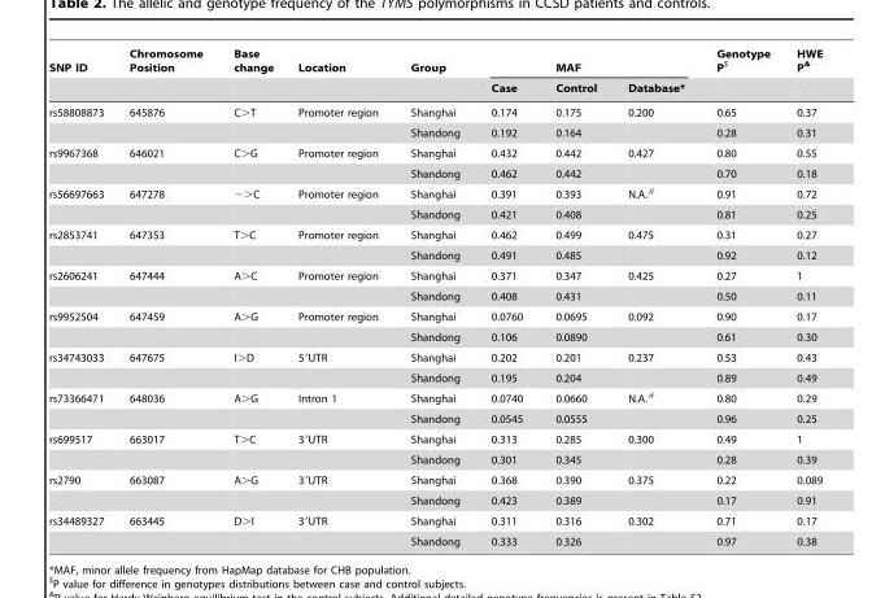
<table><thead><tr><td rowspan="2">SNP ID</td><td rowspan="2">Chromosome Position</td><td rowspan="2">Base change</td><td rowspan="2">Location</td><td rowspan="2">Group</td><td rowspan="2">Case</td><td rowspan="2">MAF Control</td><td rowspan="2">Database*</td><td rowspan="2">Genotype P$</td><td rowspan="2">HWE P&amp;</td></tr><tr></tr></thead><tbody><tr><td rowspan="2">rs58808873</td><td>645876</td><td>C&gt;T</td><td>Promoter region</td><td>Shanghai</td><td>0.174</td><td>0.175</td><td>0.200</td><td>0.65</td><td>0.37</td></tr><tr><td></td><td></td><td></td><td>Shandong</td><td>0.192</td><td>0.164</td><td></td><td>0.28</td><td>0.31</td></tr><tr><td rowspan="2">rs9967368</td><td>646021</td><td>C&gt;G</td><td>Promoter region</td><td>Shanghai</td><td>0.432</td><td>0.442</td><td>0.427</td><td>0.80</td><td>0.55</td></tr><tr><td></td><td></td><td></td><td>Shandong</td><td>0.462</td><td>0.442</td><td></td><td>0.70</td><td>0.18</td></tr><tr><td rowspan="2">rs56697663</td><td>647278</td><td>−&gt;C</td><td>Promoter region</td><td>Shanghai</td><td>0.391</td><td>0.393</td><td>N.A.#</td><td>0.91</td><td>0.72</td></tr><tr><td></td><td></td><td></td><td>Shandong</td><td>0.421</td><td>0.408</td><td></td><td>0.81</td><td>0.25</td></tr><tr><td rowspan="2">rs2853741</td><td>647353</td><td>T&gt;C</td><td>Promoter region</td><td>Shanghai</td><td>0.462</td><td>0.499</td><td>0.475</td><td>0.31</td><td>0.27</td></tr><tr><td></td><td></td><td></td><td>Shandong</td><td>0.491</td><td>0.485</td><td></td><td>0.92</td><td>0.12</td></tr><tr><td rowspan="2">rs2606241</td><td>647444</td><td>A&gt;C</td><td>Promoter region</td><td>Shanghai</td><td>0.371</td><td>0.347</td><td>0.425</td><td>0.27</td><td>1</td></tr><tr><td></td><td></td><td></td><td>Shandong</td><td>0.408</td><td>0.431</td><td></td><td>0.50</td><td>0.11</td></tr><tr><td rowspan="2">rs9952504</td><td>647459</td><td>A&gt;G</td><td>Promoter region</td><td>Shanghai</td><td>0.0760</td><td>0.0695</td><td>0.092</td><td>0.90</td><td>0.17</td></tr><tr><td></td><td></td><td></td><td>Shandong</td><td>0.106</td><td>0.0890</td><td></td><td>0.61</td><td>0.30</td></tr><tr><td rowspan="2">rs34743033</td><td>647675</td><td>I&gt;D</td><td>5′UTR</td><td>Shanghai</td><td>0.202</td><td>0.201</td><td>0.237</td><td>0.53</td><td>0.43</td></tr><tr><td></td><td></td><td></td><td>Shandong</td><td>0.195</td><td>0.204</td><td></td><td>0.89</td><td>0.49</td></tr><tr><td rowspan="2">rs73366471</td><td>648036</td><td>A&gt;G</td><td>Intron 1</td><td>Shanghai</td><td>0.0740</td><td>0.0660</td><td>N.A.#</td><td>0.80</td><td>0.29</td></tr><tr><td></td><td></td><td></td><td>Shandong</td><td>0.0545</td><td>0.0555</td><td></td><td>0.96</td><td>0.25</td></tr><tr><td rowspan="2">rs699517</td><td>663017</td><td>T&gt;C</td><td>3′UTR</td><td>Shanghai</td><td>0.313</td><td>0.285</td><td>0.300</td><td>0.49</td><td>1</td></tr><tr><td></td><td></td><td></td><td>Shandong</td><td>0.301</td><td>0.345</td><td></td><td>0.28</td><td>0.39</td></tr><tr><td rowspan="2">rs2790</td><td>663087</td><td>A&gt;G</td><td>3′UTR</td><td>Shanghai</td><td>0.368</td><td>0.390</td><td>0.375</td><td>0.22</td><td>0.089</td></tr><tr><td></td><td></td><td></td><td>Shandong</td><td>0.423</td><td>0.389</td><td></td><td>0.17</td><td>0.91</td></tr><tr><td rowspan="2">rs34489327</td><td>663445</td><td>D&gt;I</td><td>3′UTR</td><td>Shanghai</td><td>0.311</td><td>0.316</td><td>0.302</td><td>0.71</td><td>0.17</td></tr><tr><td></td><td></td><td></td><td>Shandong</td><td>0.333</td><td>0.326</td><td></td><td>0.97</td><td>0.38</td></tr></tbody></table>